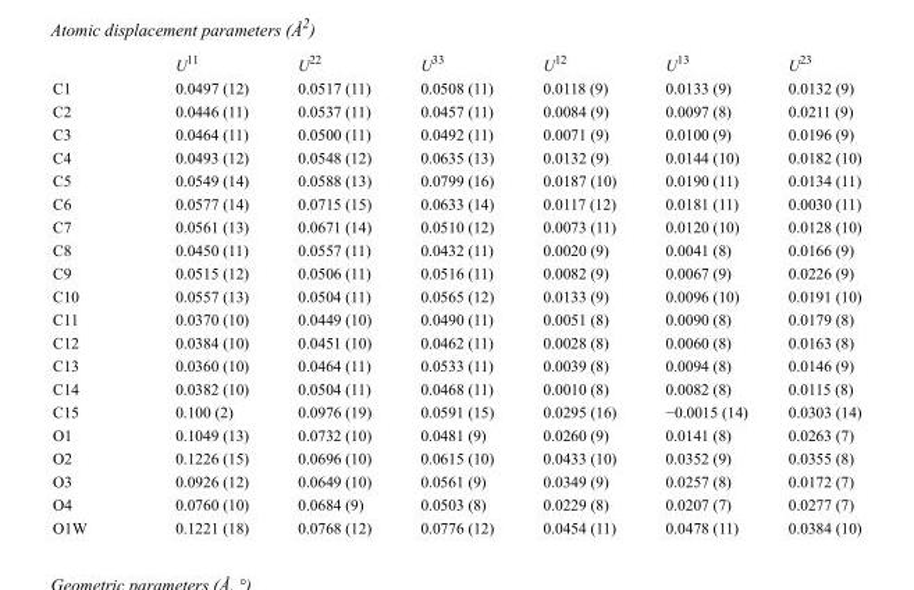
<table><thead><tr><td></td><td>U<sup>11</sup></td><td>U<sup>22</sup></td><td>U<sup>33</sup></td><td>U<sup>12</sup></td><td>U<sup>13</sup></td><td>U<sup>23</sup></td></tr></thead><tbody><tr><td>C1</td><td>0.0497 (12)</td><td>0.0517 (11)</td><td>0.0508 (11)</td><td>0.0118 (9)</td><td>0.0133 (9)</td><td>0.0132 (9)</td></tr><tr><td>C2</td><td>0.0446 (11)</td><td>0.0537 (11)</td><td>0.0457 (11)</td><td>0.0084 (9)</td><td>0.0097 (8)</td><td>0.0211 (9)</td></tr><tr><td>C3</td><td>0.0464 (11)</td><td>0.0500 (11)</td><td>0.0492 (11)</td><td>0.0071 (9)</td><td>0.0100 (9)</td><td>0.0196 (9)</td></tr><tr><td>C4</td><td>0.0493 (12)</td><td>0.0548 (12)</td><td>0.0635 (13)</td><td>0.0132 (9)</td><td>0.0144 (10)</td><td>0.0182 (10)</td></tr><tr><td>C5</td><td>0.0549 (14)</td><td>0.0588 (13)</td><td>0.0799 (16)</td><td>0.0187 (10)</td><td>0.0190 (11)</td><td>0.0134 (11)</td></tr><tr><td>C6</td><td>0.0577 (14)</td><td>0.0715 (15)</td><td>0.0633 (14)</td><td>0.0117 (12)</td><td>0.0181 (11)</td><td>0.0030 (11)</td></tr><tr><td>C7</td><td>0.0561 (13)</td><td>0.0671 (14)</td><td>0.0510 (12)</td><td>0.0073 (11)</td><td>0.0120 (10)</td><td>0.0128 (10)</td></tr><tr><td>C8</td><td>0.0450 (11)</td><td>0.0557 (11)</td><td>0.0432 (11)</td><td>0.0020 (9)</td><td>0.0041 (8)</td><td>0.0166 (9)</td></tr><tr><td>C9</td><td>0.0515 (12)</td><td>0.0506 (11)</td><td>0.0516 (11)</td><td>0.0082 (9)</td><td>0.0067 (9)</td><td>0.0226 (9)</td></tr><tr><td>C10</td><td>0.0557 (13)</td><td>0.0504 (11)</td><td>0.0565 (12)</td><td>0.0133 (9)</td><td>0.0096 (10)</td><td>0.0191 (10)</td></tr><tr><td>C11</td><td>0.0370 (10)</td><td>0.0449 (10)</td><td>0.0490 (11)</td><td>0.0051 (8)</td><td>0.0090 (8)</td><td>0.0179 (8)</td></tr><tr><td>C12</td><td>0.0384 (10)</td><td>0.0451 (10)</td><td>0.0462 (11)</td><td>0.0028 (8)</td><td>0.0060 (8)</td><td>0.0163 (8)</td></tr><tr><td>C13</td><td>0.0360 (10)</td><td>0.0464 (11)</td><td>0.0533 (11)</td><td>0.0039 (8)</td><td>0.0094 (8)</td><td>0.0146 (9)</td></tr><tr><td>C14</td><td>0.0382 (10)</td><td>0.0504 (11)</td><td>0.0468 (11)</td><td>0.0010 (8)</td><td>0.0082 (8)</td><td>0.0115 (8)</td></tr><tr><td>C15</td><td>0.100 (2)</td><td>0.0976 (19)</td><td>0.0591 (15)</td><td>0.0295 (16)</td><td>−0.0015 (14)</td><td>0.0303 (14)</td></tr><tr><td>O1</td><td>0.1049 (13)</td><td>0.0732 (10)</td><td>0.0481 (9)</td><td>0.0260 (9)</td><td>0.0141 (8)</td><td>0.0263 (7)</td></tr><tr><td>O2</td><td>0.1226 (15)</td><td>0.0696 (10)</td><td>0.0615 (10)</td><td>0.0433 (10)</td><td>0.0352 (9)</td><td>0.0355 (8)</td></tr><tr><td>O3</td><td>0.0926 (12)</td><td>0.0649 (10)</td><td>0.0561 (9)</td><td>0.0349 (9)</td><td>0.0257 (8)</td><td>0.0172 (7)</td></tr><tr><td>O4</td><td>0.0760 (10)</td><td>0.0684 (9)</td><td>0.0503 (8)</td><td>0.0229 (8)</td><td>0.0207 (7)</td><td>0.0277 (7)</td></tr><tr><td>O1W</td><td>0.1221 (18)</td><td>0.0768 (12)</td><td>0.0776 (12)</td><td>0.0454 (11)</td><td>0.0478 (11)</td><td>0.0384 (10)</td></tr></tbody></table>